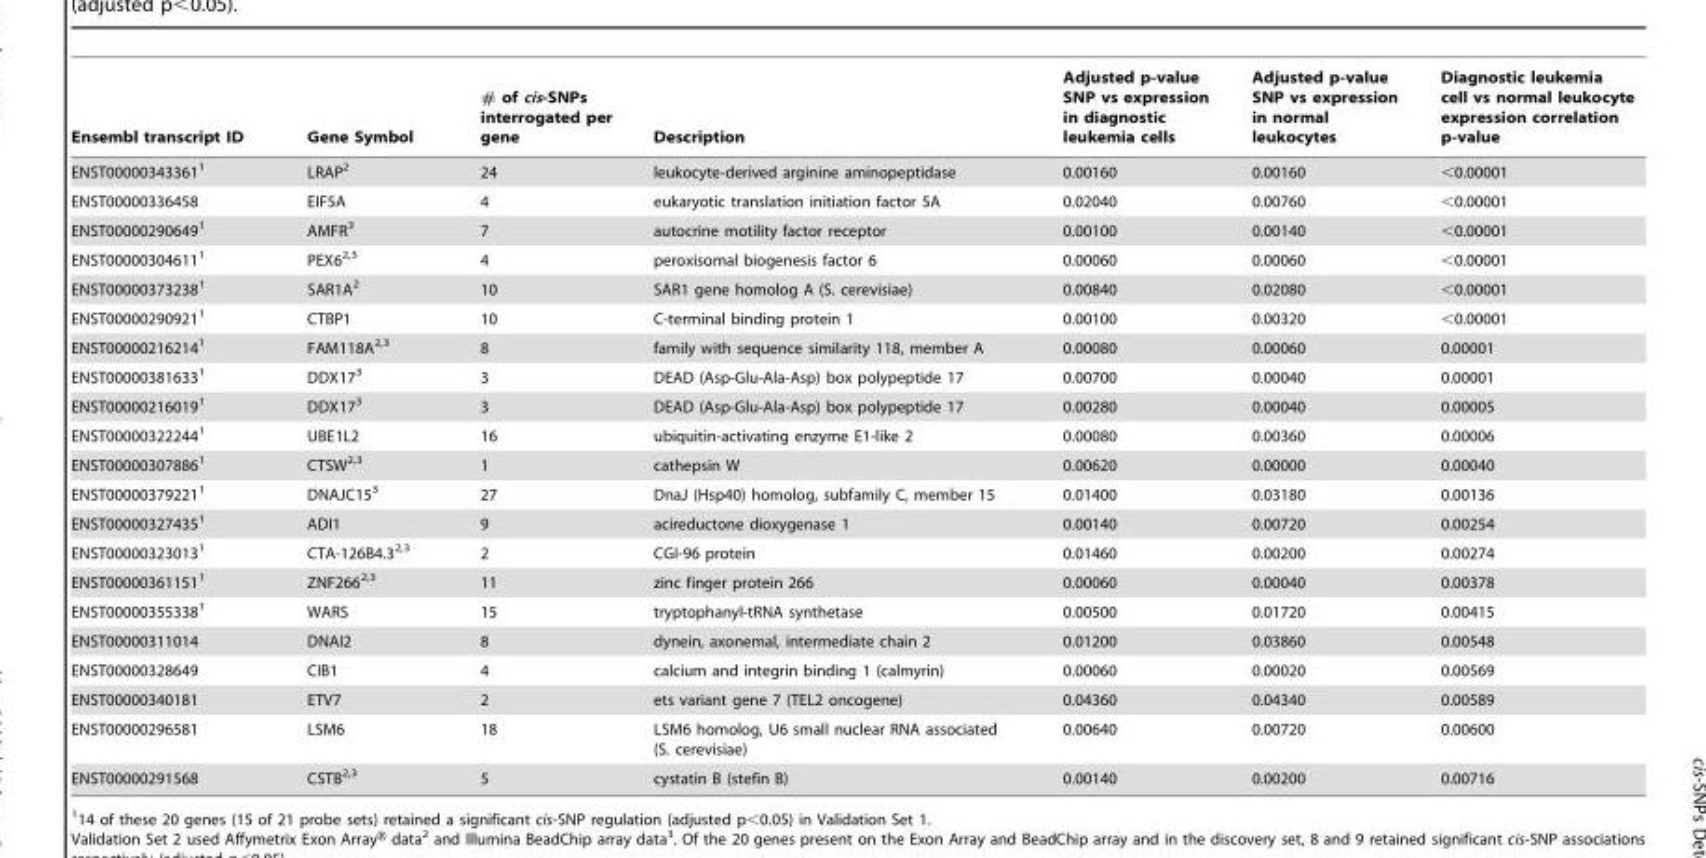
<table><thead><tr><td>Ensembl transcript ID</td><td>Gene Symbol</td><td># of cis-SNPs interrogated per gene</td><td>Description</td><td>Adjusted p-value SNP vs expression in diagnostic leukemia cells</td><td>Adjusted p-value SNP vs expression in normal leukocytes</td><td>Diagnostic leukemia cell vs normal leukocyte expression correlation p-value</td></tr></thead><tbody><tr><td>ENST00000343361<sup>1</sup></td><td>LRAP<sup>2</sup></td><td>24</td><td>leukocyte-derived arginine aminopeptidase</td><td>0.00160</td><td>0.00160</td><td>&lt;0.00001</td></tr><tr><td>ENST00000336458</td><td>EIF5A</td><td>4</td><td>eukaryotic translation initiation factor 5A</td><td>0.02040</td><td>0.00760</td><td>&lt;0.00001</td></tr><tr><td>ENST00000290649<sup>1</sup></td><td>AMFR<sup>3</sup></td><td>7</td><td>autocrine motility factor receptor</td><td>0.00100</td><td>0.00140</td><td>&lt;0.00001</td></tr><tr><td>ENST00000304611<sup>1</sup></td><td>PEX6<sup>2,</sup>3</td><td>4</td><td>peroxisomal biogenesis factor 6</td><td>0.00060</td><td>0.00060</td><td>&lt;0.00001</td></tr><tr><td>ENST00000373238<sup>1</sup></td><td>SAR1A<sup>2</sup></td><td>10</td><td>SAR1 gene homolog A (S. cerevisiae)</td><td>0.00840</td><td>0.02080</td><td>&lt;0.00001</td></tr><tr><td>ENST00000290921<sup>1</sup></td><td>CTBP1</td><td>10</td><td>C-terminal binding protein 1</td><td>0.00100</td><td>0.00320</td><td>&lt;0.00001</td></tr><tr><td>ENST00000216214<sup>1</sup></td><td>FAM118A<sup>2,</sup>3</td><td>8</td><td>family with sequence similarity 118, member A</td><td>0.00080</td><td>0.00060</td><td>0.00001</td></tr><tr><td>ENST00000381633<sup>1</sup></td><td>DDX17<sup>3</sup></td><td>3</td><td>DEAD (Asp-Glu-Ala-Asp) box polypeptide 17</td><td>0.00700</td><td>0.00040</td><td>0.00001</td></tr><tr><td>ENST00000216019<sup>1</sup></td><td>DDX17<sup>3</sup></td><td>3</td><td>DEAD (Asp-Glu-Ala-Asp) box polypeptide 17</td><td>0.00280</td><td>0.00040</td><td>0.00005</td></tr><tr><td>ENST00000322244<sup>1</sup></td><td>UBE1L2</td><td>16</td><td>ubiquitin-activating enzyme E1-like 2</td><td>0.00080</td><td>0.00360</td><td>0.00006</td></tr><tr><td>ENST00000307886<sup>1</sup></td><td>CTSW<sup>2,</sup>3</td><td>1</td><td>cathepsin W</td><td>0.00620</td><td>0.00000</td><td>0.00040</td></tr><tr><td>ENST00000379221<sup>1</sup></td><td>DNAJC15<sup>3</sup></td><td>27</td><td>DnaJ (Hsp40) homolog, subfamily C, member 15</td><td>0.01400</td><td>0.03180</td><td>0.00136</td></tr><tr><td>ENST00000327435<sup>1</sup></td><td>ADI1</td><td>9</td><td>acireductone dioxygenase 1</td><td>0.00140</td><td>0.00720</td><td>0.00254</td></tr><tr><td>ENST00000323013<sup>1</sup></td><td>CTA-126B4.3<sup>2,</sup>3</td><td>2</td><td>CGI-96 protein</td><td>0.01460</td><td>0.00200</td><td>0.00274</td></tr><tr><td>ENST00000361151<sup>1</sup></td><td>ZNF266<sup>2,</sup>3</td><td>11</td><td>zinc finger protein 266</td><td>0.00060</td><td>0.00040</td><td>0.00378</td></tr><tr><td>ENST00000355338<sup>1</sup></td><td>WARS</td><td>15</td><td>tryptophanyl-tRNA synthetase</td><td>0.00500</td><td>0.01720</td><td>0.00415</td></tr><tr><td>ENST00000311014</td><td>DNAI2</td><td>8</td><td>dynein, axonemal, intermediate chain 2</td><td>0.01200</td><td>0.03860</td><td>0.00548</td></tr><tr><td>ENST00000328649</td><td>CIB1</td><td>4</td><td>calcium and integrin binding 1 (calmyrin)</td><td>0.00060</td><td>0.00020</td><td>0.00569</td></tr><tr><td>ENST00000340181</td><td>ETV7</td><td>2</td><td>ets variant gene 7 (TEL2 oncogene)</td><td>0.04360</td><td>0.04340</td><td>0.00589</td></tr><tr><td>ENST00000296581</td><td>LSM6</td><td>18</td><td>LSM6 homolog, U6 small nuclear RNA associated (S. cerevisiae)</td><td>0.00640</td><td>0.00720</td><td>0.00600</td></tr><tr><td>ENST00000291568</td><td>CSTB<sup>2,</sup>3</td><td>5</td><td>cystatin B (stefin B)</td><td>0.00140</td><td>0.00200</td><td>0.00716</td></tr></tbody></table>